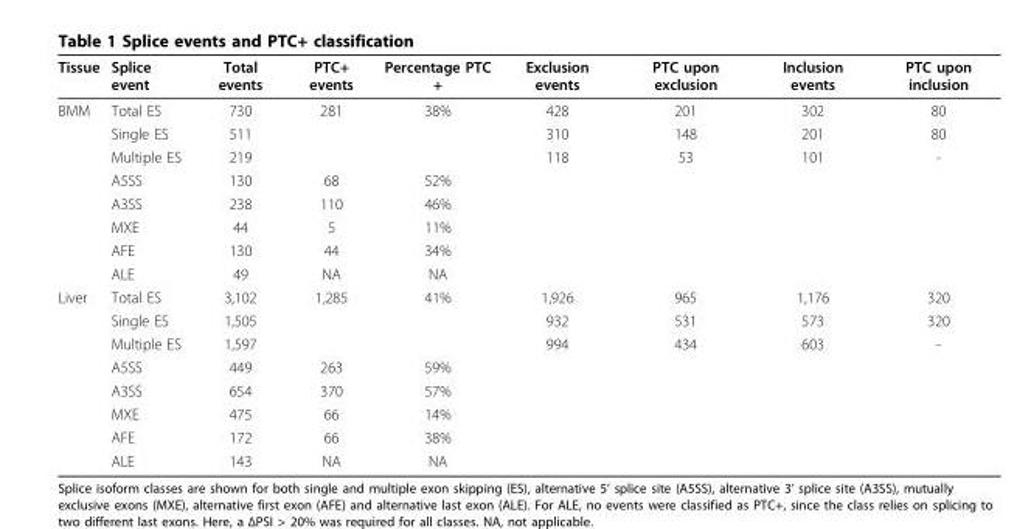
<table><thead><tr><td>Tissue</td><td>Splice event</td><td>Total events</td><td>PTC+ events</td><td>Percentage PTC +</td><td>Exclusion events</td><td>PTC upon exclusion</td><td>Inclusion events</td><td>PTC upon inclusion</td></tr></thead><tbody><tr><td rowspan="8">BMM</td><td>Total ES</td><td>730</td><td>281</td><td>38%</td><td>428</td><td>201</td><td>302</td><td>80</td></tr><tr><td>Single ES</td><td>511</td><td></td><td></td><td>310</td><td>148</td><td>201</td><td>80</td></tr><tr><td>Multiple ES</td><td>219</td><td></td><td></td><td>118</td><td>53</td><td>101</td><td>-</td></tr><tr><td>A5SS</td><td>130</td><td>68</td><td>52%</td><td></td><td></td><td></td><td></td></tr><tr><td>A3SS</td><td>238</td><td>110</td><td>46%</td><td></td><td></td><td></td><td></td></tr><tr><td>MXE</td><td>44</td><td>5</td><td>11%</td><td></td><td></td><td></td><td></td></tr><tr><td>AFE</td><td>130</td><td>44</td><td>34%</td><td></td><td></td><td></td><td></td></tr><tr><td>ALE</td><td>49</td><td>NA</td><td>NA</td><td></td><td></td><td></td><td></td></tr><tr><td rowspan="8">Liver</td><td>Total ES</td><td>3,102</td><td>1,285</td><td>41%</td><td>1,926</td><td>965</td><td>1,176</td><td>320</td></tr><tr><td>Single ES</td><td>1,505</td><td></td><td></td><td>932</td><td>531</td><td>573</td><td>320</td></tr><tr><td>Multiple ES</td><td>1,597</td><td></td><td></td><td>994</td><td>434</td><td>603</td><td>-</td></tr><tr><td>A5SS</td><td>449</td><td>263</td><td>59%</td><td></td><td></td><td></td><td></td></tr><tr><td>A3SS</td><td>654</td><td>370</td><td>57%</td><td></td><td></td><td></td><td></td></tr><tr><td>MXE</td><td>475</td><td>66</td><td>14%</td><td></td><td></td><td></td><td></td></tr><tr><td>AFE</td><td>172</td><td>66</td><td>38%</td><td></td><td></td><td></td><td></td></tr><tr><td>ALE</td><td>143</td><td>NA</td><td>NA</td><td></td><td></td><td></td><td></td></tr></tbody></table>